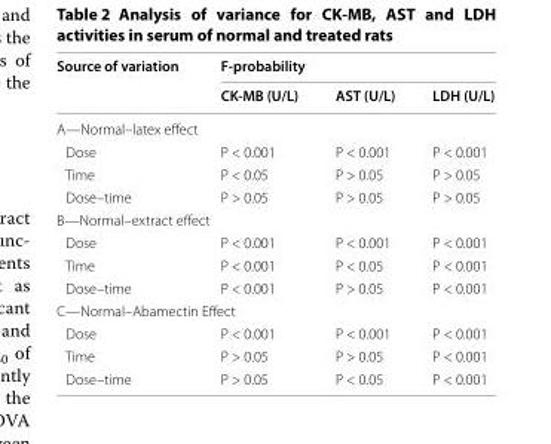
<table><thead><tr><td rowspan="2">Source of variation</td><td colspan="3">F-probability</td></tr><tr><td>CK-MB (U/L)</td><td>AST (U/L)</td><td>LDH (U/L)</td></tr></thead><tbody><tr><td colspan="4">A—Normal–latex effect</td></tr><tr><td>Dose</td><td>P &lt; 0.001</td><td>P &lt; 0.001</td><td>P &lt; 0.001</td></tr><tr><td>Time</td><td>P &lt; 0.05</td><td>P &gt; 0.05</td><td>P &gt; 0.05</td></tr><tr><td>Dose–time</td><td>P &gt; 0.05</td><td>P &gt; 0.05</td><td>P &gt; 0.05</td></tr><tr><td colspan="4">B—Normal–extract effect</td></tr><tr><td>Dose</td><td>P &lt; 0.001</td><td>P &lt; 0.001</td><td>P &lt; 0.001</td></tr><tr><td>Time</td><td>P &lt; 0.001</td><td>P &lt; 0.05</td><td>P &lt; 0.001</td></tr><tr><td>Dose–time</td><td>P &lt; 0.001</td><td>P &gt; 0.05</td><td>P &lt; 0.001</td></tr><tr><td colspan="4">C—Normal–Abamectin Effect</td></tr><tr><td>Dose</td><td>P &lt; 0.001</td><td>P &lt; 0.001</td><td>P &lt; 0.001</td></tr><tr><td>Time</td><td>P &gt; 0.05</td><td>P &gt; 0.05</td><td>P &lt; 0.001</td></tr><tr><td>Dose–time</td><td>P &gt; 0.05</td><td>P &lt; 0.05</td><td>P &lt; 0.001</td></tr></tbody></table>